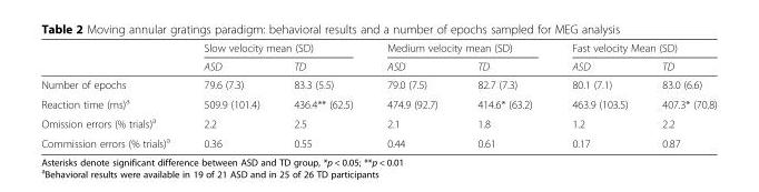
<table><thead><tr><td rowspan="2"></td><td colspan="2">Slow velocity mean (SD)</td><td colspan="2">Medium velocity mean (SD)</td><td colspan="2">Fast velocity Mean (SD)</td></tr><tr><td>ASD</td><td>TD</td><td>ASD</td><td>TD</td><td>ASD</td><td>TD</td></tr></thead><tbody><tr><td>Number of epochs</td><td>79.6 (7.3)</td><td>83.3 (5.5)</td><td>79.0 (7.5)</td><td>82.7 (7.3)</td><td>80.1 (7.1)</td><td>83.0 (6.6)</td></tr><tr><td>Reaction time (ms)<sup>a</sup></td><td>509.9 (101.4)</td><td>436.4** (62.5)</td><td>474.9 (92.7)</td><td>414.6* (63.2)</td><td>463.9 (103.5)</td><td>407.3* (70.8)</td></tr><tr><td>Omission errors (% trials)<sup>a</sup></td><td>2.2</td><td>2.5</td><td>2.1</td><td>1.8</td><td>1.2</td><td>2.2</td></tr><tr><td>Commission errors (% trials)<sup>a</sup></td><td>0.36</td><td>0.55</td><td>0.44</td><td>0.61</td><td>0.17</td><td>0.87</td></tr></tbody></table>